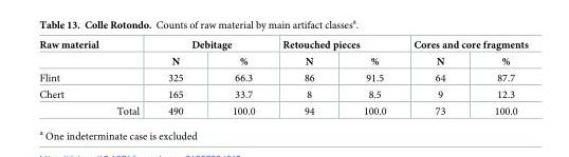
<table><thead><tr><td rowspan="2">Raw material</td><td colspan="2">Debitage</td><td colspan="2">Retouched pieces</td><td colspan="2">Cores and core fragments</td></tr><tr><td>N</td><td>%</td><td>N</td><td>%</td><td>N</td><td>%</td></tr></thead><tbody><tr><td>Flint</td><td>325</td><td>66.3</td><td>86</td><td>91.5</td><td>64</td><td>87.7</td></tr><tr><td>Chert</td><td>165</td><td>33.7</td><td>8</td><td>8.5</td><td>9</td><td>12.3</td></tr><tr><td>Total</td><td>490</td><td>100.0</td><td>94</td><td>100.0</td><td>73</td><td>100.0</td></tr></tbody></table>